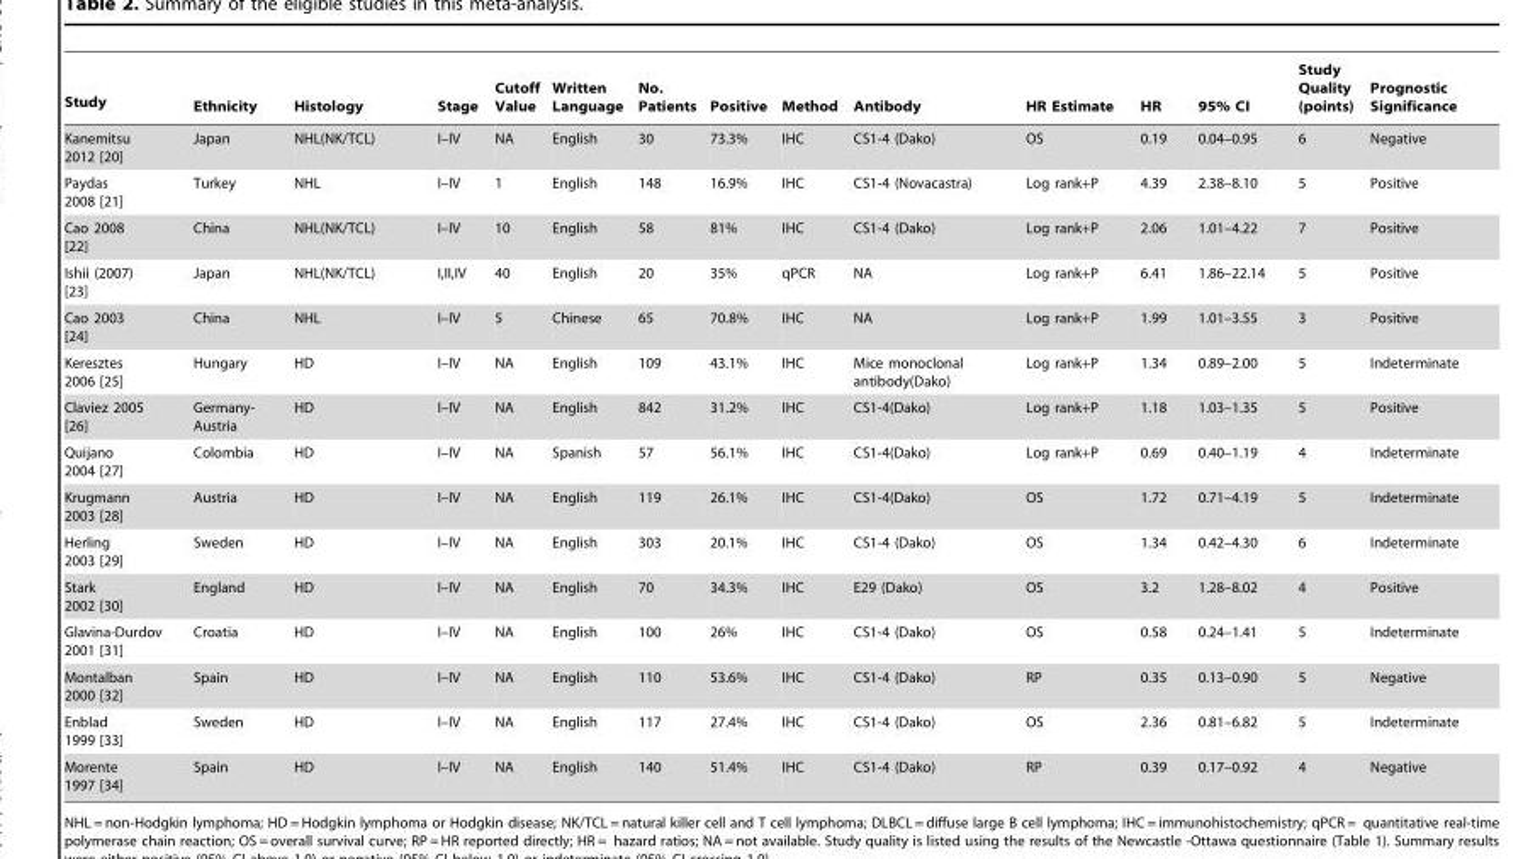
<table><thead><tr><td>Study</td><td>Ethnicity</td><td>Histology</td><td>Stage</td><td>Cutoff Value</td><td>Written Language</td><td>No. Patients</td><td>Positive</td><td>Method</td><td>Antibody</td><td>HR Estimate</td><td>HR</td><td>95% CI</td><td>Study Quality (points)</td><td>Prognostic Significance</td></tr></thead><tbody><tr><td>Kanemitsu 2012 [20]</td><td>Japan</td><td>NHL(NK/TCL)</td><td>I–IV</td><td>NA</td><td>English</td><td>30</td><td>73.3%</td><td>IHC</td><td>CS1-4 (Dako)</td><td>OS</td><td>0.19</td><td>0.04–0.95</td><td>6</td><td>Negative</td></tr><tr><td>Paydas 2008 [21]</td><td>Turkey</td><td>NHL</td><td>I–IV</td><td>1</td><td>English</td><td>148</td><td>16.9%</td><td>IHC</td><td>CS1-4 (Novacastra)</td><td>Log rank+P</td><td>4.39</td><td>2.38–8.10</td><td>5</td><td>Positive</td></tr><tr><td>Cao 2008 [22]</td><td>China</td><td>NHL(NK/TCL)</td><td>I–IV</td><td>10</td><td>English</td><td>58</td><td>81%</td><td>IHC</td><td>CS1-4 (Dako)</td><td>Log rank+P</td><td>2.06</td><td>1.01–4.22</td><td>7</td><td>Positive</td></tr><tr><td>Ishii (2007) [23]</td><td>Japan</td><td>NHL(NK/TCL)</td><td>I,II,IV</td><td>40</td><td>English</td><td>20</td><td>35%</td><td>qPCR</td><td>NA</td><td>Log rank+P</td><td>6.41</td><td>1.86–22.14</td><td>5</td><td>Positive</td></tr><tr><td>Cao 2003 [24]</td><td>China</td><td>NHL</td><td>I–IV</td><td>5</td><td>Chinese</td><td>65</td><td>70.8%</td><td>IHC</td><td>NA</td><td>Log rank+P</td><td>1.99</td><td>1.01–3.55</td><td>3</td><td>Positive</td></tr><tr><td>Keresztes 2006 [25]</td><td>Hungary</td><td>HD</td><td>I–IV</td><td>NA</td><td>English</td><td>109</td><td>43.1%</td><td>IHC</td><td>Mice monoclonal antibody(Dako)</td><td>Log rank+P</td><td>1.34</td><td>0.89–2.00</td><td>5</td><td>Indeterminate</td></tr><tr><td>Claviez 2005 [26]</td><td>Germany- Austria</td><td>HD</td><td>I–IV</td><td>NA</td><td>English</td><td>842</td><td>31.2%</td><td>IHC</td><td>CS1-4(Dako)</td><td>Log rank+P</td><td>1.18</td><td>1.03–1.35</td><td>5</td><td>Positive</td></tr><tr><td>Quijano 2004 [27]</td><td>Colombia</td><td>HD</td><td>I–IV</td><td>NA</td><td>Spanish</td><td>57</td><td>56.1%</td><td>IHC</td><td>CS1-4(Dako)</td><td>Log rank+P</td><td>0.69</td><td>0.40–1.19</td><td>4</td><td>Indeterminate</td></tr><tr><td>Krugmann 2003 [28]</td><td>Austria</td><td>HD</td><td>I–IV</td><td>NA</td><td>English</td><td>119</td><td>26.1%</td><td>IHC</td><td>CS1-4(Dako)</td><td>OS</td><td>1.72</td><td>0.71–4.19</td><td>5</td><td>Indeterminate</td></tr><tr><td>Herling 2003 [29]</td><td>Sweden</td><td>HD</td><td>I–IV</td><td>NA</td><td>English</td><td>303</td><td>20.1%</td><td>IHC</td><td>CS1-4 (Dako)</td><td>OS</td><td>1.34</td><td>0.42–4.30</td><td>6</td><td>Indeterminate</td></tr><tr><td>Stark 2002 [30]</td><td>England</td><td>HD</td><td>I–IV</td><td>NA</td><td>English</td><td>70</td><td>34.3%</td><td>IHC</td><td>E29 (Dako)</td><td>OS</td><td>3.2</td><td>1.28–8.02</td><td>4</td><td>Positive</td></tr><tr><td>Glavina-Durdov 2001 [31]</td><td>Croatia</td><td>HD</td><td>I–IV</td><td>NA</td><td>English</td><td>100</td><td>26%</td><td>IHC</td><td>CS1-4 (Dako)</td><td>OS</td><td>0.58</td><td>0.24–1.41</td><td>5</td><td>Indeterminate</td></tr><tr><td>Montalban 2000 [32]</td><td>Spain</td><td>HD</td><td>I–IV</td><td>NA</td><td>English</td><td>110</td><td>53.6%</td><td>IHC</td><td>CS1-4 (Dako)</td><td>RP</td><td>0.35</td><td>0.13–0.90</td><td>5</td><td>Negative</td></tr><tr><td>Enblad 1999 [33]</td><td>Sweden</td><td>HD</td><td>I–IV</td><td>NA</td><td>English</td><td>117</td><td>27.4%</td><td>IHC</td><td>CS1-4 (Dako)</td><td>OS</td><td>2.36</td><td>0.81–6.82</td><td>5</td><td>Indeterminate</td></tr><tr><td>Morente 1997 [34]</td><td>Spain</td><td>HD</td><td>I–IV</td><td>NA</td><td>English</td><td>140</td><td>51.4%</td><td>IHC</td><td>CS1-4 (Dako)</td><td>RP</td><td>0.39</td><td>0.17–0.92</td><td>4</td><td>Negative</td></tr></tbody></table>